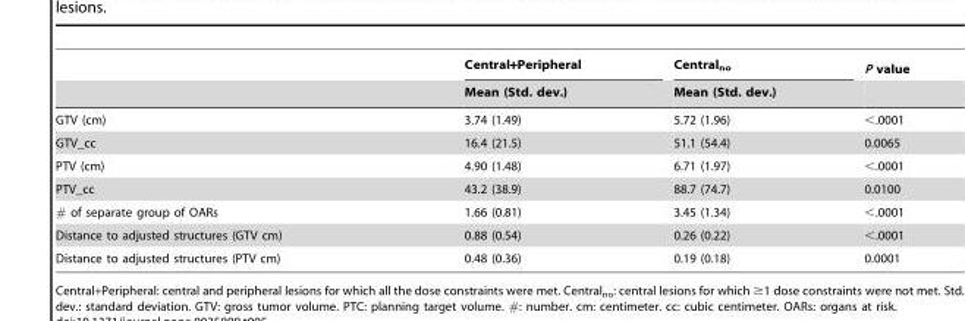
<table><thead><tr><td rowspan="2"></td><td rowspan="2">Central+Peripheral Mean (Std. dev.)</td><td rowspan="2">Central<sub>no</sub> Mean (Std. dev.)</td><td rowspan="2">P value</td></tr><tr></tr></thead><tbody><tr><td>GTV (cm)</td><td>3.74 (1.49)</td><td>5.72 (1.96)</td><td>&lt;.0001</td></tr><tr><td>GTV_cc</td><td>16.4 (21.5)</td><td>51.1 (54.4)</td><td>0.0065</td></tr><tr><td>PTV (cm)</td><td>4.90 (1.48)</td><td>6.71 (1.97)</td><td>&lt;.0001</td></tr><tr><td>PTV_cc</td><td>43.2 (38.9)</td><td>88.7 (74.7)</td><td>0.0100</td></tr><tr><td># of separate group of OARs</td><td>1.66 (0.81)</td><td>3.45 (1.34)</td><td>&lt;.0001</td></tr><tr><td>Distance to adjusted structures (GTV cm)</td><td>0.88 (0.54)</td><td>0.26 (0.22)</td><td>&lt;.0001</td></tr><tr><td>Distance to adjusted structures (PTV cm)</td><td>0.48 (0.36)</td><td>0.19 (0.18)</td><td>0.0001</td></tr></tbody></table>